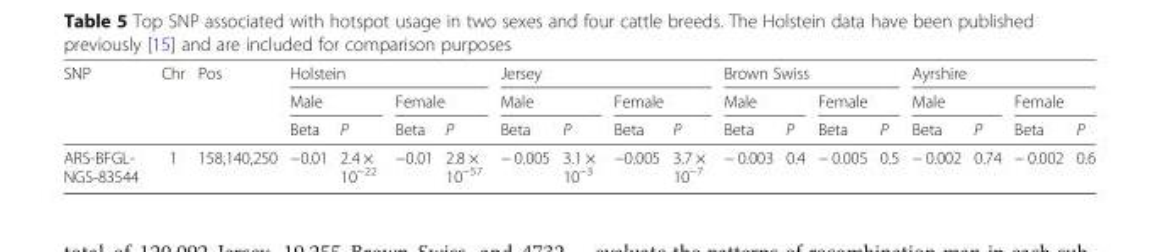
<table><thead><tr><td rowspan="3">SNP</td><td rowspan="3">Chr</td><td rowspan="3">Pos</td><td colspan="4">Holstein</td><td colspan="4">Jersey</td><td colspan="4">Brown Swiss</td><td colspan="4">Ayrshire</td></tr><tr><td colspan="2">Male</td><td colspan="2">Female</td><td colspan="2">Male</td><td colspan="2">Female</td><td colspan="2">Male</td><td colspan="2">Female</td><td colspan="2">Male</td><td colspan="2">Female</td></tr><tr><td>Beta</td><td>P</td><td>Beta</td><td>P</td><td>Beta</td><td>P</td><td>Beta</td><td>P</td><td>Beta</td><td>P</td><td>Beta</td><td>P</td><td>Beta</td><td>P</td><td>Beta</td><td>P</td></tr></thead><tbody><tr><td>ARS-BFGL- NGS-83544</td><td>1</td><td>158,140,250</td><td>−0.01</td><td>2.4 × 10<sup>−22</sup></td><td>−0.01</td><td>2.8 × 10<sup>−57</sup></td><td>− 0.005</td><td>3.1 × 10<sup>−3</sup></td><td>−0.005</td><td>3.7 × 10<sup>−7</sup></td><td>− 0.003</td><td>0.4</td><td>− 0.005</td><td>0.5</td><td>− 0.002</td><td>0.74</td><td>− 0.002</td><td>0.6</td></tr></tbody></table>